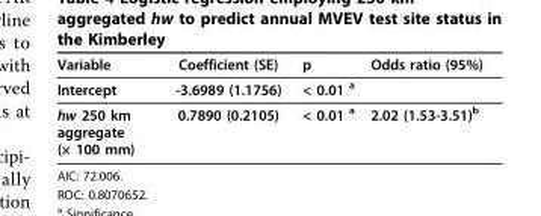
<table><thead><tr><td>Variable</td><td>Coefficient (SE)</td><td>p</td><td>Odds ratio (95%)</td></tr></thead><tbody><tr><td>Intercept</td><td>-3.6989 (1.1756)</td><td>&lt; 0.01 <sup>a</sup></td><td></td></tr><tr><td>hw 250 km aggregate (× 100 mm)</td><td>0.7890 (0.2105)</td><td>&lt; 0.01 <sup>a</sup></td><td>2.02 (1.53-3.51)<sup>b</sup></td></tr></tbody></table>